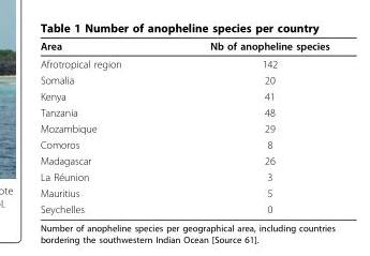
<table><thead><tr><td>Area</td><td>Nb of anopheline species</td></tr></thead><tbody><tr><td>Afrotropical region</td><td>142</td></tr><tr><td>Somalia</td><td>20</td></tr><tr><td>Kenya</td><td>41</td></tr><tr><td>Tanzania</td><td>48</td></tr><tr><td>Mozambique</td><td>29</td></tr><tr><td>Comoros</td><td>8</td></tr><tr><td>Madagascar</td><td>26</td></tr><tr><td>La Réunion</td><td>3</td></tr><tr><td>Mauritius</td><td>5</td></tr><tr><td>Seychelles</td><td>0</td></tr></tbody></table>